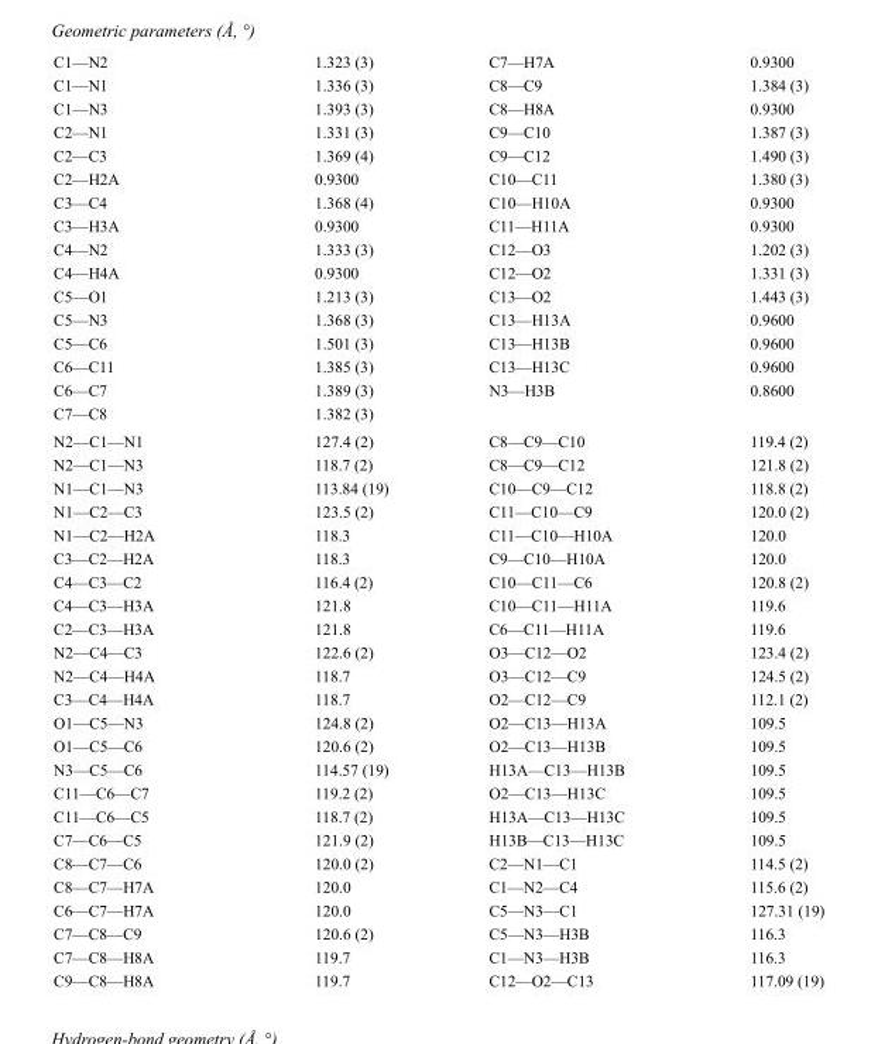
<table><tbody><tr><td>C1—N2</td><td>1.323 (3)</td><td>C7—H7A</td><td>0.9300</td></tr><tr><td>C1—N1</td><td>1.336 (3)</td><td>C8—C9</td><td>1.384 (3)</td></tr><tr><td>C1—N3</td><td>1.393 (3)</td><td>C8—H8A</td><td>0.9300</td></tr><tr><td>C2—N1</td><td>1.331 (3)</td><td>C9—C10</td><td>1.387 (3)</td></tr><tr><td>C2—C3</td><td>1.369 (4)</td><td>C9—C12</td><td>1.490 (3)</td></tr><tr><td>C2—H2A</td><td>0.9300</td><td>C10—C11</td><td>1.380 (3)</td></tr><tr><td>C3—C4</td><td>1.368 (4)</td><td>C10—H10A</td><td>0.9300</td></tr><tr><td>C3—H3A</td><td>0.9300</td><td>C11—H11A</td><td>0.9300</td></tr><tr><td>C4—N2</td><td>1.333 (3)</td><td>C12—O3</td><td>1.202 (3)</td></tr><tr><td>C4—H4A</td><td>0.9300</td><td>C12—O2</td><td>1.331 (3)</td></tr><tr><td>C5—O1</td><td>1.213 (3)</td><td>C13—O2</td><td>1.443 (3)</td></tr><tr><td>C5—N3</td><td>1.368 (3)</td><td>C13—H13A</td><td>0.9600</td></tr><tr><td>C5—C6</td><td>1.501 (3)</td><td>C13—H13B</td><td>0.9600</td></tr><tr><td>C6—C11</td><td>1.385 (3)</td><td>C13—H13C</td><td>0.9600</td></tr><tr><td>C6—C7</td><td>1.389 (3)</td><td>N3—H3B</td><td>0.8600</td></tr><tr><td>C7—C8</td><td>1.382 (3)</td><td></td><td></td></tr><tr><td>N2—C1—N1</td><td>127.4 (2)</td><td>C8—C9—C10</td><td>119.4 (2)</td></tr><tr><td>N2—C1—N3</td><td>118.7 (2)</td><td>C8—C9—C12</td><td>121.8 (2)</td></tr><tr><td>N1—C1—N3</td><td>113.84 (19)</td><td>C10—C9—C12</td><td>118.8 (2)</td></tr><tr><td>N1—C2—C3</td><td>123.5 (2)</td><td>C11—C10—C9</td><td>120.0 (2)</td></tr><tr><td>N1—C2—H2A</td><td>118.3</td><td>C11—C10—H10A</td><td>120.0</td></tr><tr><td>C3—C2—H2A</td><td>118.3</td><td>C9—C10—H10A</td><td>120.0</td></tr><tr><td>C4—C3—C2</td><td>116.4 (2)</td><td>C10—C11—C6</td><td>120.8 (2)</td></tr><tr><td>C4—C3—H3A</td><td>121.8</td><td>C10—C11—H11A</td><td>119.6</td></tr><tr><td>C2—C3—H3A</td><td>121.8</td><td>C6—C11—H11A</td><td>119.6</td></tr><tr><td>N2—C4—C3</td><td>122.6 (2)</td><td>O3—C12—O2</td><td>123.4 (2)</td></tr><tr><td>N2—C4—H4A</td><td>118.7</td><td>O3—C12—C9</td><td>124.5 (2)</td></tr><tr><td>C3—C4—H4A</td><td>118.7</td><td>O2—C12—C9</td><td>112.1 (2)</td></tr><tr><td>O1—C5—N3</td><td>124.8 (2)</td><td>O2—C13—H13A</td><td>109.5</td></tr><tr><td>O1—C5—C6</td><td>120.6 (2)</td><td>O2—C13—H13B</td><td>109.5</td></tr><tr><td>N3—C5—C6</td><td>114.57 (19)</td><td>H13A—C13—H13B</td><td>109.5</td></tr><tr><td>C11—C6—C7</td><td>119.2 (2)</td><td>O2—C13—H13C</td><td>109.5</td></tr><tr><td>C11—C6—C5</td><td>118.7 (2)</td><td>H13A—C13—H13C</td><td>109.5</td></tr><tr><td>C7—C6—C5</td><td>121.9 (2)</td><td>H13B—C13—H13C</td><td>109.5</td></tr><tr><td>C8—C7—C6</td><td>120.0 (2)</td><td>C2—N1—C1</td><td>114.5 (2)</td></tr><tr><td>C8—C7—H7A</td><td>120.0</td><td>C1—N2—C4</td><td>115.6 (2)</td></tr><tr><td>C6—C7—H7A</td><td>120.0</td><td>C5—N3—C1</td><td>127.31 (19)</td></tr><tr><td>C7—C8—C9</td><td>120.6 (2)</td><td>C5—N3—H3B</td><td>116.3</td></tr><tr><td>C7—C8—H8A</td><td>119.7</td><td>C1—N3—H3B</td><td>116.3</td></tr><tr><td>C9—C8—H8A</td><td>119.7</td><td>C12—O2—C13</td><td>117.09 (19)</td></tr></tbody></table>